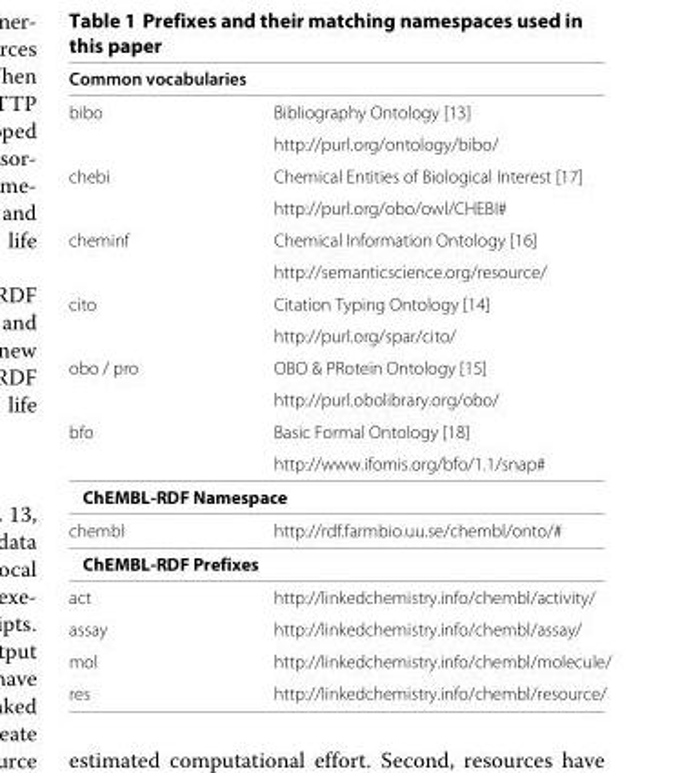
<table><thead><tr><td>Common vocabularies</td><td></td></tr></thead><tbody><tr><td rowspan="2">bibo</td><td>Bibliography Ontology [13]</td></tr><tr><td>http://purl.org/ontology/bibo/</td></tr><tr><td rowspan="2">chebi</td><td>Chemical Entities of Biological Interest [17]</td></tr><tr><td>http://purl.org/obo/owl/CHEBI#</td></tr><tr><td rowspan="2">cheminf</td><td>Chemical Information Ontology [16]</td></tr><tr><td>http://semanticscience.org/resource/</td></tr><tr><td rowspan="2">cito</td><td>Citation Typing Ontology [14]</td></tr><tr><td>http://purl.org/spar/cito/</td></tr><tr><td rowspan="2">obo / pro</td><td>OBO &amp; PRotein Ontology [15]</td></tr><tr><td>http://purl.obolibrary.org/obo/</td></tr><tr><td rowspan="2">bfo</td><td>Basic Formal Ontology [18]</td></tr><tr><td>http://www.ifomis.org/bfo/1.1/snap#</td></tr><tr><td colspan="2">ChEMBL-RDF Namespace</td></tr><tr><td>chembl</td><td>http://rdf.farmbio.uu.se/chembl/onto/#</td></tr><tr><td colspan="2">ChEMBL-RDF Prefixes</td></tr><tr><td>act</td><td>http://linkedchemistry.info/chembl/activity/</td></tr><tr><td>assay</td><td>http://linkedchemistry.info/chembl/assay/</td></tr><tr><td>mol</td><td>http://linkedchemistry.info/chembl/molecule/</td></tr><tr><td>res</td><td>http://linkedchemistry.info/chembl/resource/</td></tr></tbody></table>